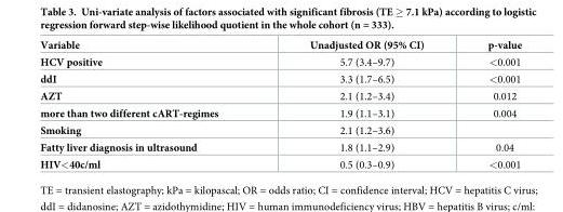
<table><thead><tr><td>Variable</td><td>Unadjusted OR (95% CI)</td><td>p-value</td></tr></thead><tbody><tr><td>HCV positive</td><td>5.7 (3.4–9.7)</td><td>&lt;0.001</td></tr><tr><td>ddI</td><td>3.3 (1.7–6.5)</td><td>&lt;0.001</td></tr><tr><td>AZT</td><td>2.1 (1.2–3.4)</td><td>0.012</td></tr><tr><td>more than two different cART-regimes</td><td>1.9 (1.1–3.1)</td><td>0.004</td></tr><tr><td>Smoking</td><td>2.1 (1.2–3.6)</td><td></td></tr><tr><td>Fatty liver diagnosis in ultrasound</td><td>1.8 (1.1–2.9)</td><td>0.04</td></tr><tr><td>HIV&lt;40c/ml</td><td>0.5 (0.3–0.9)</td><td>&lt;0.001</td></tr></tbody></table>